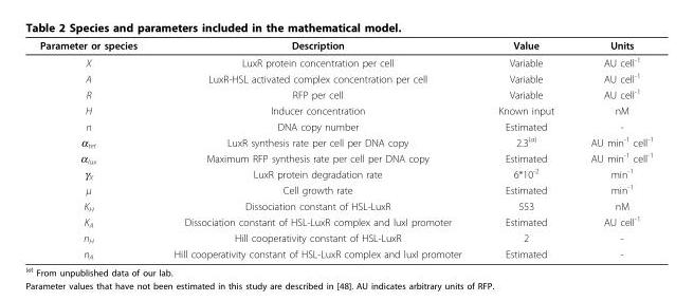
<table><thead><tr><td>Parameter or species</td><td>Description</td><td>Value</td><td>Units</td></tr></thead><tbody><tr><td>X</td><td>LuxR protein concentration per cell</td><td>Variable</td><td>AU cell<sup>-1</sup></td></tr><tr><td>A</td><td>LuxR-HSL activated complex concentration per cell</td><td>Variable</td><td>AU cell<sup>-1</sup></td></tr><tr><td>R</td><td>RFP per cell</td><td>Variable</td><td>AU cell<sup>-1</sup></td></tr><tr><td>H</td><td>Inducer concentration</td><td>Known input</td><td>nM</td></tr><tr><td>n</td><td>DNA copy number</td><td>Estimated</td><td>-</td></tr><tr><td>α<sub>tet</sub></td><td>LuxR synthesis rate per cell per DNA copy</td><td>2.3<sup>(a)</sup></td><td>AU min<sup>-1</sup> cell<sup>-1</sup></td></tr><tr><td>α<sub>lux</sub></td><td>Maximum RFP synthesis rate per cell per DNA copy</td><td>Estimated</td><td>AU min<sup>-1</sup> cell<sup>-1</sup></td></tr><tr><td>γ<sub>X</sub></td><td>LuxR protein degradation rate</td><td>6*10<sup>-2</sup></td><td>min<sup>-1</sup></td></tr><tr><td>μ</td><td>Cell growth rate</td><td>Estimated</td><td>min<sup>-1</sup></td></tr><tr><td>K<sub>H</sub></td><td>Dissociation constant of HSL-LuxR</td><td>553</td><td>nM</td></tr><tr><td>K<sub>A</sub></td><td>Dissociation constant of HSL-LuxR complex and luxI promoter</td><td>Estimated</td><td>AU cell<sup>-1</sup></td></tr><tr><td>n<sub>H</sub></td><td>Hill cooperativity constant of HSL-LuxR</td><td>2</td><td>-</td></tr><tr><td>n<sub>A</sub></td><td>Hill cooperativity constant of HSL-LuxR complex and luxI promoter</td><td>Estimated</td><td>-</td></tr></tbody></table>